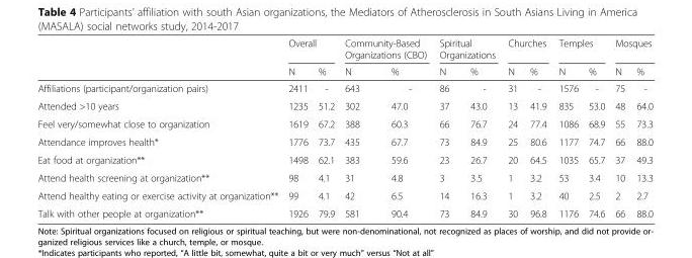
<table><thead><tr><td rowspan="2"></td><td colspan="2">Overall</td><td colspan="2">Community-Based Organizations (CBO)</td><td colspan="2">Spiritual Organizations</td><td colspan="2">Churches</td><td colspan="2">Temples</td><td colspan="2">Mosques</td></tr><tr><td>N</td><td>%</td><td>N</td><td>%</td><td>N</td><td>%</td><td>N</td><td>%</td><td>N</td><td>%</td><td>N</td><td>%</td></tr></thead><tbody><tr><td>Affiliations (participant/organization pairs)</td><td>2411</td><td>-</td><td>643</td><td>-</td><td>86</td><td>-</td><td>31</td><td>-</td><td>1576</td><td>-</td><td>75</td><td>-</td></tr><tr><td>Attended &gt;10 years</td><td>1235</td><td>51.2</td><td>302</td><td>47.0</td><td>37</td><td>43.0</td><td>13</td><td>41.9</td><td>835</td><td>53.0</td><td>48</td><td>64.0</td></tr><tr><td>Feel very/somewhat close to organization</td><td>1619</td><td>67.2</td><td>388</td><td>60.3</td><td>66</td><td>76.7</td><td>24</td><td>77.4</td><td>1086</td><td>68.9</td><td>55</td><td>73.3</td></tr><tr><td>Attendance improves health*</td><td>1776</td><td>73.7</td><td>435</td><td>67.7</td><td>73</td><td>84.9</td><td>25</td><td>80.6</td><td>1177</td><td>74.7</td><td>66</td><td>88.0</td></tr><tr><td>Eat food at organization**</td><td>1498</td><td>62.1</td><td>383</td><td>59.6</td><td>23</td><td>26.7</td><td>20</td><td>64.5</td><td>1035</td><td>65.7</td><td>37</td><td>49.3</td></tr><tr><td>Attend health screening at organization**</td><td>98</td><td>4.1</td><td>31</td><td>4.8</td><td>3</td><td>3.5</td><td>1</td><td>3.2</td><td>53</td><td>3.4</td><td>10</td><td>13.3</td></tr><tr><td>Attend healthy eating or exercise activity at organization**</td><td>99</td><td>4.1</td><td>42</td><td>6.5</td><td>14</td><td>16.3</td><td>1</td><td>3.2</td><td>40</td><td>2.5</td><td>2</td><td>2.7</td></tr><tr><td>Talk with other people at organization**</td><td>1926</td><td>79.9</td><td>581</td><td>90.4</td><td>73</td><td>84.9</td><td>30</td><td>96.8</td><td>1176</td><td>74.6</td><td>66</td><td>88.0</td></tr></tbody></table>